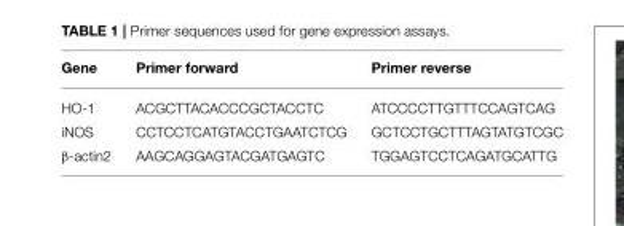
<table><thead><tr><td>Gene</td><td>Primer forward</td><td>Primer reverse</td></tr></thead><tbody><tr><td>HO-1</td><td>ACGCTTACACCCGCTACCTC</td><td>ATCCCCTTGTTTCCAGTCAG</td></tr><tr><td>iNOS</td><td>CCTCCTCATGTACCTGAATCTCG</td><td>GCTCCTGCTTTAGTATGTCGC</td></tr><tr><td>β-actin2</td><td>AAGCAGGAGTACGATGAGTC</td><td>TGGAGTCCTCAGATGCATTG</td></tr></tbody></table>